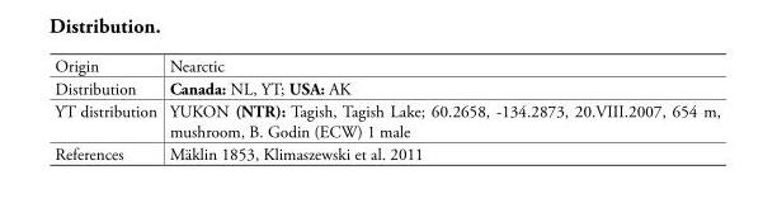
<table><tbody><tr><td>Origin</td><td>Nearctic</td></tr><tr><td>Distribution</td><td>Canada: NL, YT; USA: AK</td></tr><tr><td>YT distribution</td><td>YUKON (NTR): Tagish, Tagish Lake; 60.2658, -134.2873, 20.VIII.2007, 654 m, mushroom, B. Godin (ECW) 1 male</td></tr><tr><td>References</td><td>Mäklin 1853, Klimaszewski et al. 2011</td></tr></tbody></table>